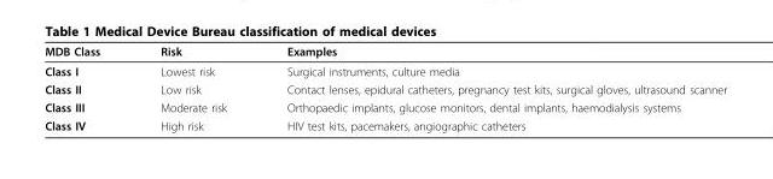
<table><thead><tr><td>MDB Class</td><td>Risk</td><td>Examples</td></tr></thead><tbody><tr><td>Class I</td><td>Lowest risk</td><td>Surgical instruments, culture media</td></tr><tr><td>Class II</td><td>Low risk</td><td>Contact lenses, epidural catheters, pregnancy test kits, surgical gloves, ultrasound scanner</td></tr><tr><td>Class III</td><td>Moderate risk</td><td>Orthopaedic implants, glucose monitors, dental implants, haemodialysis systems</td></tr><tr><td>Class IV</td><td>High risk</td><td>HIV test kits, pacemakers, angiographic catheters</td></tr></tbody></table>